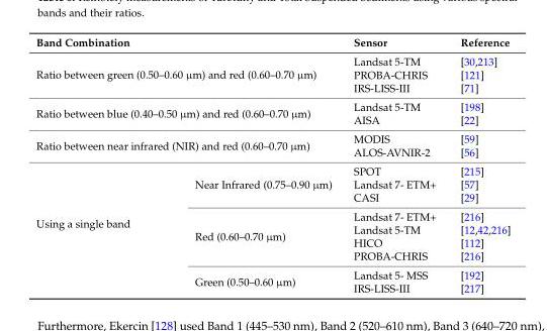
<table><thead><tr><td colspan="2">Band Combination</td><td>Sensor</td><td>Reference</td></tr></thead><tbody><tr><td rowspan="3" colspan="2">Ratio between green (0.50–0.60 µm) and red (0.60–0.70 µm)</td><td>Landsat 5-TM</td><td>[30,213]</td></tr><tr><td>PROBA-CHRIS</td><td>[121]</td></tr><tr><td>IRS-LISS-III</td><td>[71]</td></tr><tr><td rowspan="2" colspan="2">Ratio between blue (0.40–0.50 µm) and red (0.60–0.70 µm)</td><td>Landsat 5-TM</td><td>[198]</td></tr><tr><td>AISA</td><td>[22]</td></tr><tr><td rowspan="2" colspan="2">Ratio between near infrared (NIR) and red (0.60–0.70 µm)</td><td>MODIS</td><td>[59]</td></tr><tr><td>ALOS-AVNIR-2</td><td>[56]</td></tr><tr><td rowspan="9">Using a single band</td><td rowspan="3">Near Infrared (0.75–0.90 µm)</td><td>SPOT</td><td>[215]</td></tr><tr><td>Landsat 7- ETM+</td><td>[57]</td></tr><tr><td>CASI</td><td>[29]</td></tr><tr><td rowspan="4">Red (0.60–0.70 µm)</td><td>Landsat 7- ETM+</td><td>[216]</td></tr><tr><td>Landsat 5-TM</td><td>[12,42,216]</td></tr><tr><td>HICO</td><td>[112]</td></tr><tr><td>PROBA-CHRIS</td><td>[216]</td></tr><tr><td rowspan="2">Green (0.50–0.60 µm)</td><td>Landsat 5- MSS</td><td>[192]</td></tr><tr><td>IRS-LISS-III</td><td>[217]</td></tr></tbody></table>